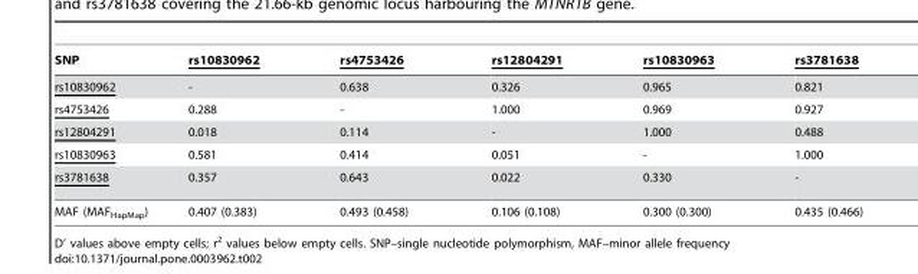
<table><thead><tr><td>SNP</td><td>rs10830962</td><td>rs4753426</td><td>rs12804291</td><td>rs10830963</td><td>rs3781638</td></tr></thead><tbody><tr><td>rs10830962</td><td>-</td><td>0.638</td><td>0.326</td><td>0.965</td><td>0.821</td></tr><tr><td>rs4753426</td><td>0.288</td><td>-</td><td>1.000</td><td>0.969</td><td>0.927</td></tr><tr><td>rs12804291</td><td>0.018</td><td>0.114</td><td>-</td><td>1.000</td><td>0.488</td></tr><tr><td>rs10830963</td><td>0.581</td><td>0.414</td><td>0.051</td><td>-</td><td>1.000</td></tr><tr><td>rs3781638</td><td>0.357</td><td>0.643</td><td>0.022</td><td>0.330</td><td>-</td></tr><tr><td>MAF (MAF<sub>HapMap</sub>)</td><td>0.407 (0.383)</td><td>0.493 (0.458)</td><td>0.106 (0.108)</td><td>0.300 (0.300)</td><td>0.435 (0.466)</td></tr></tbody></table>